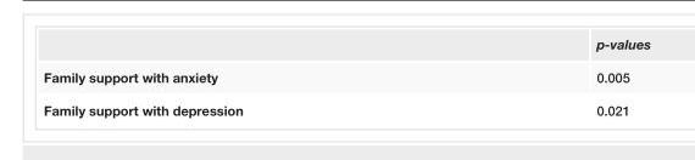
<table><thead><tr><td></td><td>p-values</td></tr></thead><tbody><tr><td>Family support with anxiety</td><td>0.005</td></tr><tr><td>Family support with depression</td><td>0.021</td></tr></tbody></table>